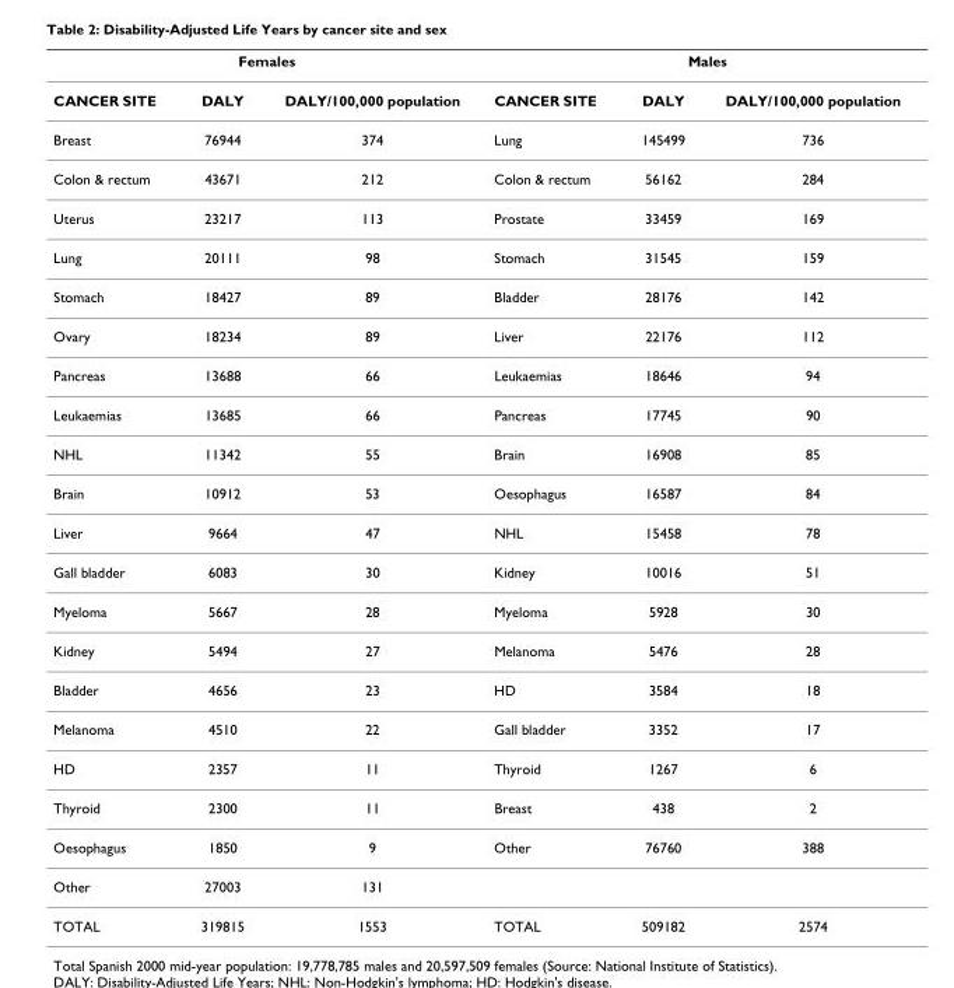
<table><thead><tr><td colspan="3">Females</td><td colspan="3">Males</td></tr><tr><td>CANCER SITE</td><td>DALY</td><td>DALY/100,000 population</td><td>CANCER SITE</td><td>DALY</td><td>DALY/100,000 population</td></tr></thead><tbody><tr><td>Breast</td><td>76944</td><td>374</td><td>Lung</td><td>145499</td><td>736</td></tr><tr><td>Colon &amp; rectum</td><td>43671</td><td>212</td><td>Colon &amp; rectum</td><td>56162</td><td>284</td></tr><tr><td>Uterus</td><td>23217</td><td>113</td><td>Prostate</td><td>33459</td><td>169</td></tr><tr><td>Lung</td><td>20111</td><td>98</td><td>Stomach</td><td>31545</td><td>159</td></tr><tr><td>Stomach</td><td>18427</td><td>89</td><td>Bladder</td><td>28176</td><td>142</td></tr><tr><td>Ovary</td><td>18234</td><td>89</td><td>Liver</td><td>22176</td><td>112</td></tr><tr><td>Pancreas</td><td>13688</td><td>66</td><td>Leukaemias</td><td>18646</td><td>94</td></tr><tr><td>Leukaemias</td><td>13685</td><td>66</td><td>Pancreas</td><td>17745</td><td>90</td></tr><tr><td>NHL</td><td>11342</td><td>55</td><td>Brain</td><td>16908</td><td>85</td></tr><tr><td>Brain</td><td>10912</td><td>53</td><td>Oesophagus</td><td>16587</td><td>84</td></tr><tr><td>Liver</td><td>9664</td><td>47</td><td>NHL</td><td>15458</td><td>78</td></tr><tr><td>Gall bladder</td><td>6083</td><td>30</td><td>Kidney</td><td>10016</td><td>51</td></tr><tr><td>Myeloma</td><td>5667</td><td>28</td><td>Myeloma</td><td>5928</td><td>30</td></tr><tr><td>Kidney</td><td>5494</td><td>27</td><td>Melanoma</td><td>5476</td><td>28</td></tr><tr><td>Bladder</td><td>4656</td><td>23</td><td>HD</td><td>3584</td><td>18</td></tr><tr><td>Melanoma</td><td>4510</td><td>22</td><td>Gall bladder</td><td>3352</td><td>17</td></tr><tr><td>HD</td><td>2357</td><td>11</td><td>Thyroid</td><td>1267</td><td>6</td></tr><tr><td>Thyroid</td><td>2300</td><td>11</td><td>Breast</td><td>438</td><td>2</td></tr><tr><td>Oesophagus</td><td>1850</td><td>9</td><td>Other</td><td>76760</td><td>388</td></tr><tr><td>Other</td><td>27003</td><td>131</td><td></td><td></td><td></td></tr><tr><td>TOTAL</td><td>319815</td><td>1553</td><td>TOTAL</td><td>509182</td><td>2574</td></tr></tbody></table>